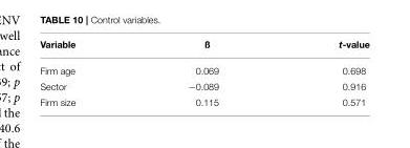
<table><thead><tr><td>Variable</td><td>ß</td><td>t-value</td></tr></thead><tbody><tr><td>Firm age</td><td>0.069</td><td>0.698</td></tr><tr><td>Sector</td><td>−0.089</td><td>0.916</td></tr><tr><td>Firm size</td><td>0.115</td><td>0.571</td></tr></tbody></table>